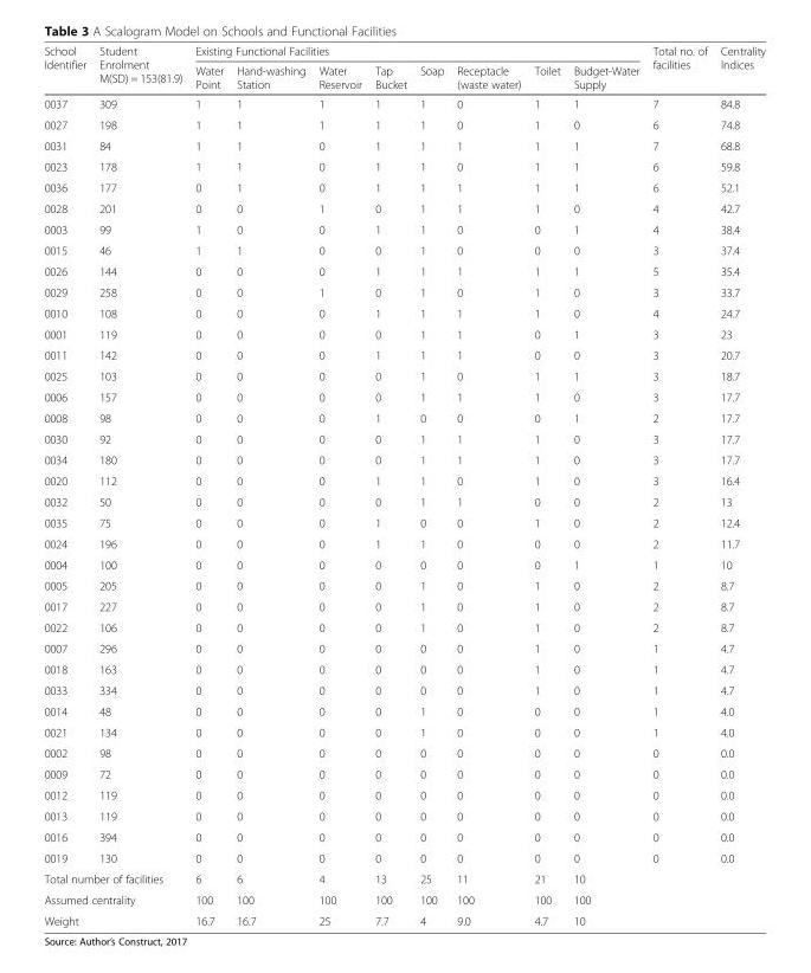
<table><thead><tr><td rowspan="2">School Identifier</td><td rowspan="2">Student Enrolment M(SD) = 153(81.9)</td><td colspan="8">Existing Functional Facilities</td><td rowspan="2">Total no. of facilities</td><td rowspan="2">Centrality Indices</td></tr><tr><td>Water Point</td><td>Hand-washing Station</td><td>Water Reservoir</td><td>Tap Bucket</td><td>Soap</td><td>Receptacle (waste water)</td><td>Toilet</td><td>Budget-Water Supply</td></tr></thead><tbody><tr><td>0037</td><td>309</td><td>1</td><td>1</td><td>1</td><td>1</td><td>1</td><td>0</td><td>1</td><td>1</td><td>7</td><td>84.8</td></tr><tr><td>0027</td><td>198</td><td>1</td><td>1</td><td>1</td><td>1</td><td>1</td><td>0</td><td>1</td><td>0</td><td>6</td><td>74.8</td></tr><tr><td>0031</td><td>84</td><td>1</td><td>1</td><td>0</td><td>1</td><td>1</td><td>1</td><td>1</td><td>1</td><td>7</td><td>68.8</td></tr><tr><td>0023</td><td>178</td><td>1</td><td>1</td><td>0</td><td>1</td><td>1</td><td>0</td><td>1</td><td>1</td><td>6</td><td>59.8</td></tr><tr><td>0036</td><td>177</td><td>0</td><td>1</td><td>0</td><td>1</td><td>1</td><td>1</td><td>1</td><td>1</td><td>6</td><td>52.1</td></tr><tr><td>0028</td><td>201</td><td>0</td><td>0</td><td>1</td><td>0</td><td>1</td><td>1</td><td>1</td><td>0</td><td>4</td><td>42.7</td></tr><tr><td>0003</td><td>99</td><td>1</td><td>0</td><td>0</td><td>1</td><td>1</td><td>0</td><td>0</td><td>1</td><td>4</td><td>38.4</td></tr><tr><td>0015</td><td>46</td><td>1</td><td>1</td><td>0</td><td>0</td><td>1</td><td>0</td><td>0</td><td>0</td><td>3</td><td>37.4</td></tr><tr><td>0026</td><td>144</td><td>0</td><td>0</td><td>0</td><td>1</td><td>1</td><td>1</td><td>1</td><td>1</td><td>5</td><td>35.4</td></tr><tr><td>0029</td><td>258</td><td>0</td><td>0</td><td>1</td><td>0</td><td>1</td><td>0</td><td>1</td><td>0</td><td>3</td><td>33.7</td></tr><tr><td>0010</td><td>108</td><td>0</td><td>0</td><td>0</td><td>1</td><td>1</td><td>1</td><td>1</td><td>0</td><td>4</td><td>24.7</td></tr><tr><td>0001</td><td>119</td><td>0</td><td>0</td><td>0</td><td>0</td><td>1</td><td>1</td><td>0</td><td>1</td><td>3</td><td>23</td></tr><tr><td>0011</td><td>142</td><td>0</td><td>0</td><td>0</td><td>1</td><td>1</td><td>1</td><td>0</td><td>0</td><td>3</td><td>20.7</td></tr><tr><td>0025</td><td>103</td><td>0</td><td>0</td><td>0</td><td>0</td><td>1</td><td>0</td><td>1</td><td>1</td><td>3</td><td>18.7</td></tr><tr><td>0006</td><td>157</td><td>0</td><td>0</td><td>0</td><td>0</td><td>1</td><td>1</td><td>1</td><td>0</td><td>3</td><td>17.7</td></tr><tr><td>0008</td><td>98</td><td>0</td><td>0</td><td>0</td><td>1</td><td>0</td><td>0</td><td>0</td><td>1</td><td>2</td><td>17.7</td></tr><tr><td>0030</td><td>92</td><td>0</td><td>0</td><td>0</td><td>0</td><td>1</td><td>1</td><td>1</td><td>0</td><td>3</td><td>17.7</td></tr><tr><td>0034</td><td>180</td><td>0</td><td>0</td><td>0</td><td>0</td><td>1</td><td>1</td><td>1</td><td>0</td><td>3</td><td>17.7</td></tr><tr><td>0020</td><td>112</td><td>0</td><td>0</td><td>0</td><td>1</td><td>1</td><td>0</td><td>1</td><td>0</td><td>3</td><td>16.4</td></tr><tr><td>0032</td><td>50</td><td>0</td><td>0</td><td>0</td><td>0</td><td>1</td><td>1</td><td>0</td><td>0</td><td>2</td><td>13</td></tr><tr><td>0035</td><td>75</td><td>0</td><td>0</td><td>0</td><td>1</td><td>0</td><td>0</td><td>1</td><td>0</td><td>2</td><td>12.4</td></tr><tr><td>0024</td><td>196</td><td>0</td><td>0</td><td>0</td><td>1</td><td>1</td><td>0</td><td>0</td><td>0</td><td>2</td><td>11.7</td></tr><tr><td>0004</td><td>100</td><td>0</td><td>0</td><td>0</td><td>0</td><td>0</td><td>0</td><td>0</td><td>1</td><td>1</td><td>10</td></tr><tr><td>0005</td><td>205</td><td>0</td><td>0</td><td>0</td><td>0</td><td>1</td><td>0</td><td>1</td><td>0</td><td>2</td><td>8.7</td></tr><tr><td>0017</td><td>227</td><td>0</td><td>0</td><td>0</td><td>0</td><td>1</td><td>0</td><td>1</td><td>0</td><td>2</td><td>8.7</td></tr><tr><td>0022</td><td>106</td><td>0</td><td>0</td><td>0</td><td>0</td><td>1</td><td>0</td><td>1</td><td>0</td><td>2</td><td>8.7</td></tr><tr><td>0007</td><td>296</td><td>0</td><td>0</td><td>0</td><td>0</td><td>0</td><td>0</td><td>1</td><td>0</td><td>1</td><td>4.7</td></tr><tr><td>0018</td><td>163</td><td>0</td><td>0</td><td>0</td><td>0</td><td>0</td><td>0</td><td>1</td><td>0</td><td>1</td><td>4.7</td></tr><tr><td>0033</td><td>334</td><td>0</td><td>0</td><td>0</td><td>0</td><td>0</td><td>0</td><td>1</td><td>0</td><td>1</td><td>4.7</td></tr><tr><td>0014</td><td>48</td><td>0</td><td>0</td><td>0</td><td>0</td><td>1</td><td>0</td><td>0</td><td>0</td><td>1</td><td>4.0</td></tr><tr><td>0021</td><td>134</td><td>0</td><td>0</td><td>0</td><td>0</td><td>1</td><td>0</td><td>0</td><td>0</td><td>1</td><td>4.0</td></tr><tr><td>0002</td><td>98</td><td>0</td><td>0</td><td>0</td><td>0</td><td>0</td><td>0</td><td>0</td><td>0</td><td>0</td><td>0.0</td></tr><tr><td>0009</td><td>72</td><td>0</td><td>0</td><td>0</td><td>0</td><td>0</td><td>0</td><td>0</td><td>0</td><td>0</td><td>0.0</td></tr><tr><td>0012</td><td>119</td><td>0</td><td>0</td><td>0</td><td>0</td><td>0</td><td>0</td><td>0</td><td>0</td><td>0</td><td>0.0</td></tr><tr><td>0013</td><td>119</td><td>0</td><td>0</td><td>0</td><td>0</td><td>0</td><td>0</td><td>0</td><td>0</td><td>0</td><td>0.0</td></tr><tr><td>0016</td><td>394</td><td>0</td><td>0</td><td>0</td><td>0</td><td>0</td><td>0</td><td>0</td><td>0</td><td>0</td><td>0.0</td></tr><tr><td>0019</td><td>130</td><td>0</td><td>0</td><td>0</td><td>0</td><td>0</td><td>0</td><td>0</td><td>0</td><td>0</td><td>0.0</td></tr><tr><td colspan="2">Total number of facilities</td><td>6</td><td>6</td><td>4</td><td>13</td><td>25</td><td>11</td><td>21</td><td>10</td><td></td><td></td></tr><tr><td colspan="2">Assumed centrality</td><td>100</td><td>100</td><td>100</td><td>100</td><td>100</td><td>100</td><td>100</td><td>100</td><td></td><td></td></tr><tr><td colspan="2">Weight</td><td>16.7</td><td>16.7</td><td>25</td><td>7.7</td><td>4</td><td>9.0</td><td>4.7</td><td>10</td><td></td><td></td></tr></tbody></table>